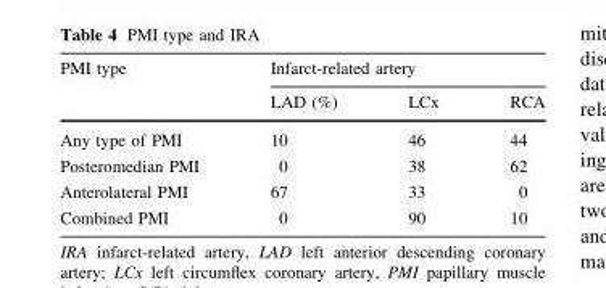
<table><thead><tr><td rowspan="2">PMI type</td><td colspan="3">Infarct-related artery</td></tr><tr><td>LAD (%)</td><td>LCx</td><td>RCA</td></tr></thead><tbody><tr><td>Any type of PMI</td><td>10</td><td>46</td><td>44</td></tr><tr><td>Posteromedian PMI</td><td>0</td><td>38</td><td>62</td></tr><tr><td>Anterolateral PMI</td><td>67</td><td>33</td><td>0</td></tr><tr><td>Combined PMI</td><td>0</td><td>90</td><td>10</td></tr></tbody></table>